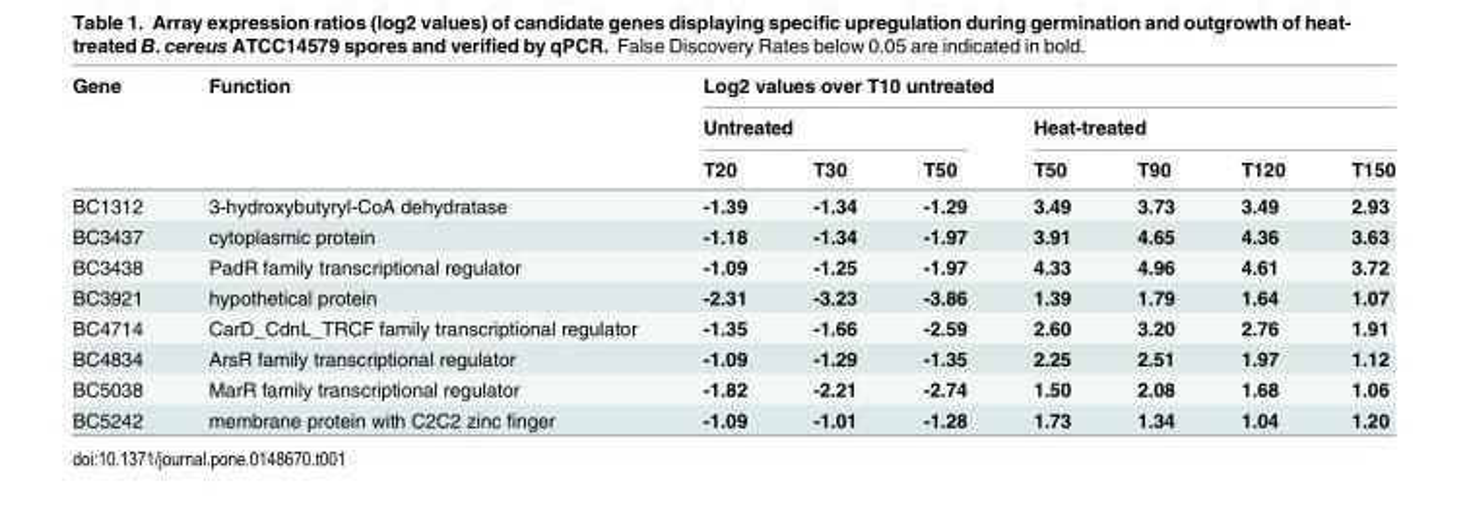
<table><thead><tr><td rowspan="3">Gene</td><td rowspan="3">Function</td><td colspan="7">Log2 values over T10 untreated</td></tr><tr><td colspan="3">Untreated</td><td colspan="4">Heat-treated</td></tr><tr><td>T20</td><td>T30</td><td>T50</td><td>T50</td><td>T90</td><td>T120</td><td>T150</td></tr></thead><tbody><tr><td>BC1312</td><td>3-hydroxybutyryl-CoA dehydratase</td><td>-1.39</td><td>-1.34</td><td>-1.29</td><td>3.49</td><td>3.73</td><td>3.49</td><td>2.93</td></tr><tr><td>BC3437</td><td>cytoplasmic protein</td><td>-1.18</td><td>-1.34</td><td>-1.97</td><td>3.91</td><td>4.65</td><td>4.36</td><td>3.63</td></tr><tr><td>BC3438</td><td>PadR family transcriptional regulator</td><td>-1.09</td><td>-1.25</td><td>-1.97</td><td>4.33</td><td>4.96</td><td>4.61</td><td>3.72</td></tr><tr><td>BC3921</td><td>hypothetical protein</td><td>-2.31</td><td>-3.23</td><td>-3.86</td><td>1.39</td><td>1.79</td><td>1.64</td><td>1.07</td></tr><tr><td>BC4714</td><td>CarD_CdnL_TRCF family transcriptional regulator</td><td>-1.35</td><td>-1.66</td><td>-2.59</td><td>2.60</td><td>3.20</td><td>2.76</td><td>1.91</td></tr><tr><td>BC4834</td><td>ArsR family transcriptional regulator</td><td>-1.09</td><td>-1.29</td><td>-1.35</td><td>2.25</td><td>2.51</td><td>1.97</td><td>1.12</td></tr><tr><td>BC5038</td><td>MarR family transcriptional regulator</td><td>-1.82</td><td>-2.21</td><td>-2.74</td><td>1.50</td><td>2.08</td><td>1.68</td><td>1.06</td></tr><tr><td>BC5242</td><td>membrane protein with C2C2 zinc finger</td><td>-1.09</td><td>-1.01</td><td>-1.28</td><td>1.73</td><td>1.34</td><td>1.04</td><td>1.20</td></tr></tbody></table>